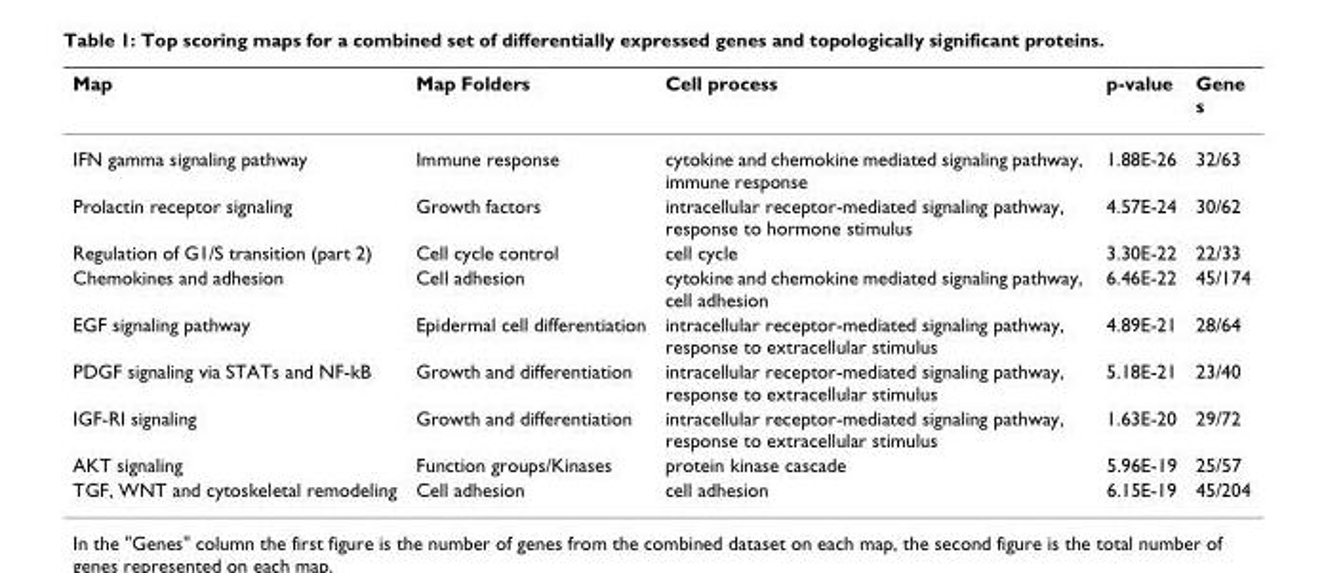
<table><thead><tr><td>Map</td><td>Map Folders</td><td>Cell process</td><td>p-value</td><td>Gene s</td></tr></thead><tbody><tr><td>IFN gamma signaling pathway</td><td>Immune response</td><td>cytokine and chemokine mediated signaling pathway, immune response</td><td>1.88E-26</td><td>32/63</td></tr><tr><td>Prolactin receptor signaling</td><td>Growth factors</td><td>intracellular receptor-mediated signaling pathway, response to hormone stimulus</td><td>4.57E-24</td><td>30/62</td></tr><tr><td>Regulation of G1/S transition (part 2)</td><td>Cell cycle control</td><td>cell cycle</td><td>3.30E-22</td><td>22/33</td></tr><tr><td>Chemokines and adhesion</td><td>Cell adhesion</td><td>cytokine and chemokine mediated signaling pathway, cell adhesion</td><td>6.46E-22</td><td>45/174</td></tr><tr><td>EGF signaling pathway</td><td>Epidermal cell differentiation</td><td>intracellular receptor-mediated signaling pathway, response to extracellular stimulus</td><td>4.89E-21</td><td>28/64</td></tr><tr><td>PDGF signaling via STATs and NF-kB</td><td>Growth and differentiation</td><td>intracellular receptor-mediated signaling pathway, response to extracellular stimulus</td><td>5.18E-21</td><td>23/40</td></tr><tr><td>IGF-RI signaling</td><td>Growth and differentiation</td><td>intracellular receptor-mediated signaling pathway, response to extracellular stimulus</td><td>1.63E-20</td><td>29/72</td></tr><tr><td>AKT signaling</td><td>Function groups/Kinases</td><td>protein kinase cascade</td><td>5.96E-19</td><td>25/57</td></tr><tr><td>TGF, WNT and cytoskeletal remodeling</td><td>Cell adhesion</td><td>cell adhesion</td><td>6.15E-19</td><td>45/204</td></tr></tbody></table>